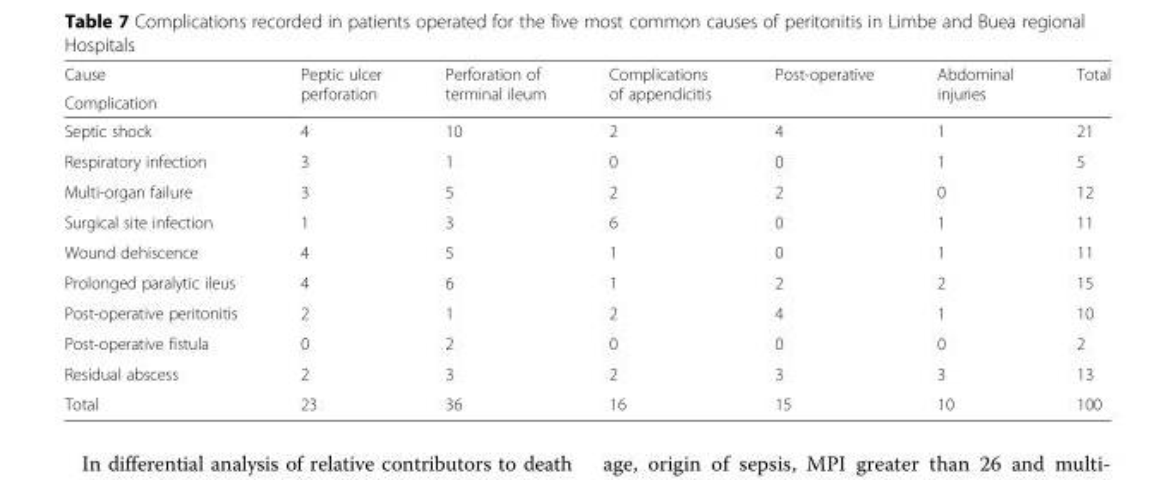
<table><thead><tr><td rowspan="2">Cause Complication</td><td rowspan="2">Peptic ulcer perforation</td><td rowspan="2">Perforation of terminal ileum</td><td rowspan="2">Complications of appendicitis</td><td rowspan="2">Post-operative</td><td rowspan="2">Abdominal injuries</td><td rowspan="2">Total</td></tr><tr></tr></thead><tbody><tr><td>Septic shock</td><td>4</td><td>10</td><td>2</td><td>4</td><td>1</td><td>21</td></tr><tr><td>Respiratory infection</td><td>3</td><td>1</td><td>0</td><td>0</td><td>1</td><td>5</td></tr><tr><td>Multi-organ failure</td><td>3</td><td>5</td><td>2</td><td>2</td><td>0</td><td>12</td></tr><tr><td>Surgical site infection</td><td>1</td><td>3</td><td>6</td><td>0</td><td>1</td><td>11</td></tr><tr><td>Wound dehiscence</td><td>4</td><td>5</td><td>1</td><td>0</td><td>1</td><td>11</td></tr><tr><td>Prolonged paralytic ileus</td><td>4</td><td>6</td><td>1</td><td>2</td><td>2</td><td>15</td></tr><tr><td>Post-operative peritonitis</td><td>2</td><td>1</td><td>2</td><td>4</td><td>1</td><td>10</td></tr><tr><td>Post-operative fistula</td><td>0</td><td>2</td><td>0</td><td>0</td><td>0</td><td>2</td></tr><tr><td>Residual abscess</td><td>2</td><td>3</td><td>2</td><td>3</td><td>3</td><td>13</td></tr><tr><td>Total</td><td>23</td><td>36</td><td>16</td><td>15</td><td>10</td><td>100</td></tr></tbody></table>